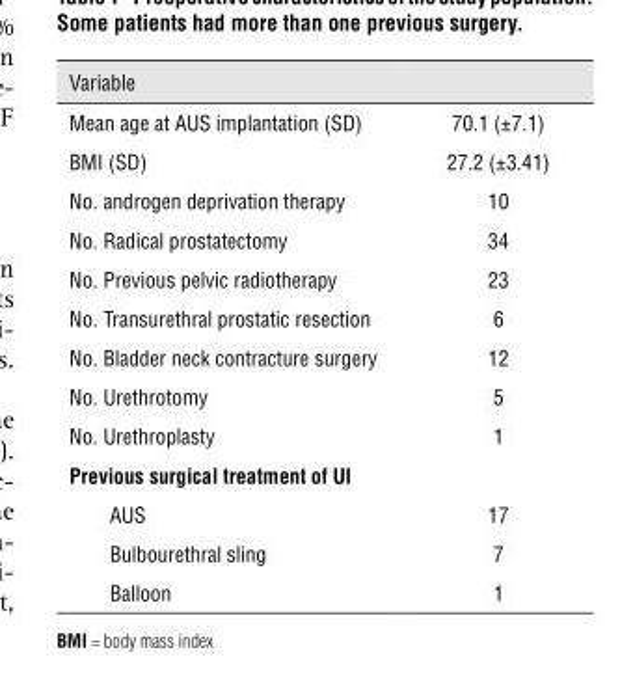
<table><thead><tr><td>Variable</td><td></td></tr></thead><tbody><tr><td>Mean age at AUS implantation (SD)</td><td>70.1 (±7.1)</td></tr><tr><td>BMI (SD)</td><td>27.2 (±3.41)</td></tr><tr><td>No. androgen deprivation therapy</td><td>10</td></tr><tr><td>No. Radical prostatectomy</td><td>34</td></tr><tr><td>No. Previous pelvic radiotherapy</td><td>23</td></tr><tr><td>No. Transurethral prostatic resection</td><td>6</td></tr><tr><td>No. Bladder neck contracture surgery</td><td>12</td></tr><tr><td>No. Urethrotomy</td><td>5</td></tr><tr><td>No. Urethroplasty</td><td>1</td></tr><tr><td colspan="2">previous surgical treatment of uI</td></tr><tr><td>AUS</td><td>17</td></tr><tr><td>Bulbourethral sling</td><td>7</td></tr><tr><td>Balloon</td><td>1</td></tr></tbody></table>